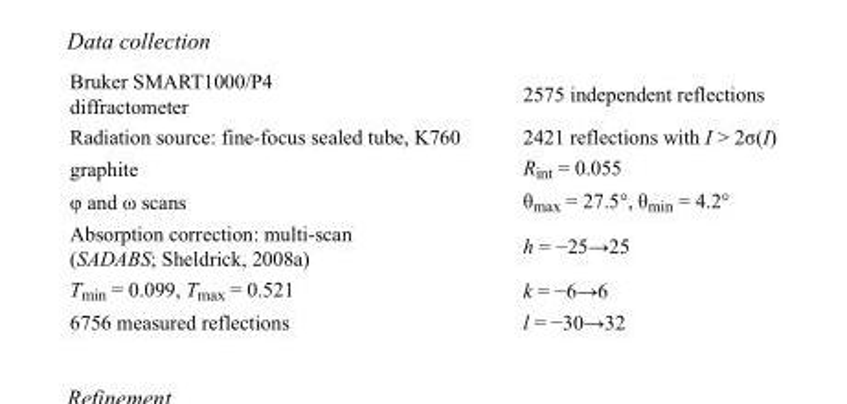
<table><tbody><tr><td>Bruker SMART1000/P4 diffractometer</td><td>2575 independent reflections</td></tr><tr><td>Radiation source: fine-focus sealed tube, K760</td><td>2421 reflections with I &gt; 2σ(I)</td></tr><tr><td>graphite</td><td>R<sub>int</sub> = 0.055</td></tr><tr><td>φ and ω scans</td><td>θ<sub>max</sub> = 27.5°, θ<sub>min</sub> = 4.2°</td></tr><tr><td>Absorption correction: multi-scan (SADABS; Sheldrick, 2008a)</td><td>h = −25→25</td></tr><tr><td>T<sub>min</sub> = 0.099, T<sub>max</sub> = 0.521</td><td>k = −6→6</td></tr><tr><td>6756 measured reflections</td><td>l = −30→32</td></tr></tbody></table>